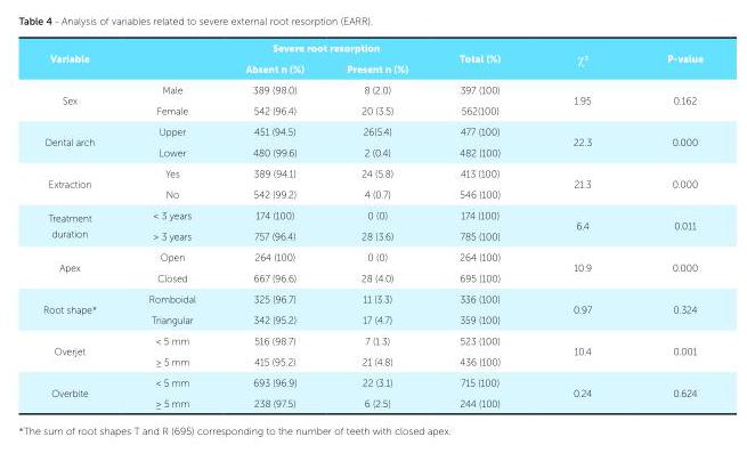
<table><thead><tr><td rowspan="2">Variable</td><td rowspan="2"></td><td colspan="2">Severe root resorption</td><td rowspan="2">Total (%)</td><td rowspan="2">χ<sup>2</sup></td><td rowspan="2">P-value</td></tr><tr><td>Absent n (%)</td><td>Present n (%)</td></tr></thead><tbody><tr><td rowspan="2">Sex</td><td>Male</td><td>389 (98.0)</td><td>8 (2.0)</td><td>397 (100)</td><td rowspan="2">1.95</td><td rowspan="2">0.162</td></tr><tr><td>Female</td><td>542 (96.4)</td><td>20 (3.5)</td><td>562(100)</td></tr><tr><td rowspan="2">Dental arch</td><td>Upper</td><td>451 (94.5)</td><td>26(5.4)</td><td>477 (100)</td><td rowspan="2">22.3</td><td rowspan="2">0.000</td></tr><tr><td>Lower</td><td>480 (99.6)</td><td>2 (0.4)</td><td>482 (100)</td></tr><tr><td rowspan="2">Extraction</td><td>Yes</td><td>389 (94.1)</td><td>24 (5.8)</td><td>413 (100)</td><td rowspan="2">21.3</td><td rowspan="2">0.000</td></tr><tr><td>No</td><td>542 (99.2)</td><td>4 (0.7)</td><td>546 (100)</td></tr><tr><td rowspan="2">Treatment duration</td><td>&lt; 3 years</td><td>174 (100)</td><td>0 (0)</td><td>174 (100)</td><td rowspan="2">6.4</td><td rowspan="2">0.011</td></tr><tr><td>&gt; 3 years</td><td>757 (96.4)</td><td>28 (3.6)</td><td>785 (100)</td></tr><tr><td rowspan="2">Apex</td><td>Open</td><td>264 (100)</td><td>0 (0)</td><td>264 (100)</td><td rowspan="2">10.9</td><td rowspan="2">0.000</td></tr><tr><td>Closed</td><td>667 (96.6)</td><td>28 (4.0)</td><td>695 (100)</td></tr><tr><td rowspan="2">Root shape*</td><td>Romboidal</td><td>325 (96.7)</td><td>11 (3.3)</td><td>336 (100)</td><td rowspan="2">0.97</td><td rowspan="2">0.324</td></tr><tr><td>Triangular</td><td>342 (95.2)</td><td>17 (4.7)</td><td>359 (100)</td></tr><tr><td rowspan="2">Overjet</td><td>&lt; 5 mm</td><td>516 (98.7)</td><td>7 (1.3)</td><td>523 (100)</td><td rowspan="2">10.4</td><td rowspan="2">0.001</td></tr><tr><td>≥ 5 mm</td><td>415 (95.2)</td><td>21 (4.8)</td><td>436 (100)</td></tr><tr><td rowspan="2">Overbite</td><td>&lt; 5 mm</td><td>693 (96.9)</td><td>22 (3.1)</td><td>715 (100)</td><td rowspan="2">0.24</td><td rowspan="2">0.624</td></tr><tr><td>≥ 5 mm</td><td>238 (97.5)</td><td>6 (2.5)</td><td>244 (100)</td></tr></tbody></table>